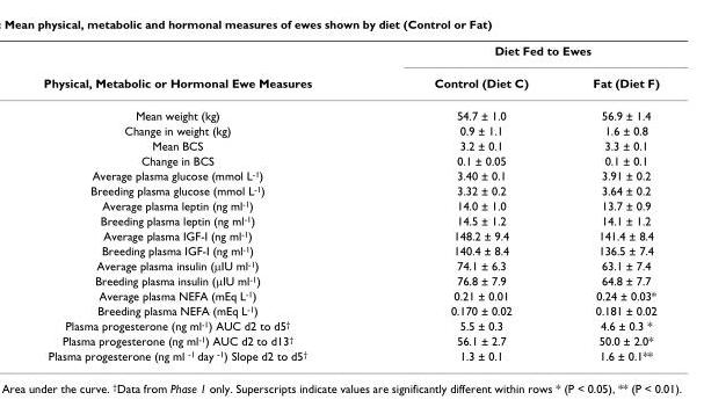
<table><thead><tr><td rowspan="2">Physical, Metabolic or Hormonal Ewe Measures</td><td colspan="2">Diet Fed to Ewes</td></tr><tr><td>Control (Diet C)</td><td>Fat (Diet F)</td></tr></thead><tbody><tr><td>Mean weight (kg)</td><td>54.7 ± 1.0</td><td>56.9 ± 1.4</td></tr><tr><td>Change in weight (kg)</td><td>0.9 ± 1.1</td><td>1.6 ± 0.8</td></tr><tr><td>Mean BCS</td><td>3.2 ± 0.1</td><td>3.3 ± 0.1</td></tr><tr><td>Change in BCS</td><td>0.1 ± 0.05</td><td>0.1 ± 0.1</td></tr><tr><td>Average plasma glucose (mmol L<sup>-1</sup>)</td><td>3.40 ± 0.1</td><td>3.91 ± 0.2</td></tr><tr><td>Breeding plasma glucose (mmol L<sup>-1</sup>)</td><td>3.32 ± 0.2</td><td>3.64 ± 0.2</td></tr><tr><td>Average plasma leptin (ng ml<sup>-1</sup>)</td><td>14.0 ± 1.0</td><td>13.7 ± 0.9</td></tr><tr><td>Breeding plasma leptin (ng ml<sup>-1</sup>)</td><td>14.5 ± 1.2</td><td>14.1 ± 1.2</td></tr><tr><td>Average plasma IGF-I (ng ml<sup>-1</sup>)</td><td>148.2 ± 9.4</td><td>141.4 ± 8.4</td></tr><tr><td>Breeding plasma IGF-I (ng ml<sup>-1</sup>)</td><td>140.4 ± 8.4</td><td>136.5 ± 7.4</td></tr><tr><td>Average plasma insulin (μIU ml<sup>-1</sup>)</td><td>74.1 ± 6.3</td><td>63.1 ± 7.4</td></tr><tr><td>Breeding plasma insulin (μIU ml<sup>-1</sup>)</td><td>76.8 ± 7.9</td><td>64.8 ± 7.7</td></tr><tr><td>Average plasma NEFA (mEq L<sup>-1</sup>)</td><td>0.21 ± 0.01</td><td>0.24 ± 0.03*</td></tr><tr><td>Breeding plasma NEFA (mEq L<sup>-1</sup>)</td><td>0.170 ± 0.02</td><td>0.181 ± 0.02</td></tr><tr><td>Plasma progesterone (ng ml<sup>-1</sup>) AUC d2 to d5<sup>†</sup></td><td>5.5 ± 0.3</td><td>4.6 ± 0.3 *</td></tr><tr><td>Plasma progesterone (ng ml<sup>-1</sup>) AUC d2 to d13<sup>†</sup></td><td>56.1 ± 2.7</td><td>50.0 ± 2.0*</td></tr><tr><td>Plasma progesterone (ng ml <sup>-1</sup> day <sup>-1</sup>) Slope d2 to d5<sup>†</sup></td><td>1.3 ± 0.1</td><td>1.6 ± 0.1**</td></tr></tbody></table>